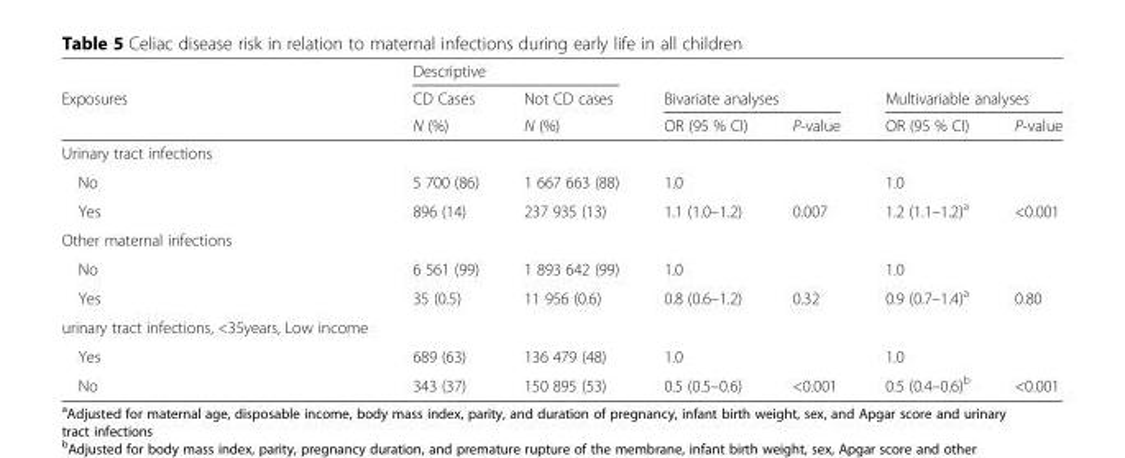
<table><thead><tr><td rowspan="3">Exposures</td><td colspan="2">Descriptive</td><td></td><td></td><td></td><td></td></tr><tr><td rowspan="2">CD Cases N (%)</td><td rowspan="2">Not CD cases N (%)</td><td colspan="2">Bivariate analyses</td><td colspan="2">Multivariable analyses</td></tr><tr><td>OR (95 % CI)</td><td>P-value</td><td>OR (95 % CI)</td><td>P-value</td></tr></thead><tbody><tr><td colspan="7">Urinary tract infections</td></tr><tr><td>No</td><td>5 700 (86)</td><td>1 667 663 (88)</td><td>1.0</td><td></td><td>1.0</td><td></td></tr><tr><td>Yes</td><td>896 (14)</td><td>237 935 (13)</td><td>1.1 (1.0–1.2)</td><td>0.007</td><td>1.2 (1.1–1.2)<sup>a</sup></td><td>&lt;0.001</td></tr><tr><td colspan="7">Other maternal infections</td></tr><tr><td>No</td><td>6 561 (99)</td><td>1 893 642 (99)</td><td>1.0</td><td></td><td>1.0</td><td></td></tr><tr><td>Yes</td><td>35 (0.5)</td><td>11 956 (0.6)</td><td>0.8 (0.6–1.2)</td><td>0.32</td><td>0.9 (0.7–1.4)<sup>a</sup></td><td>0.80</td></tr><tr><td colspan="7">urinary tract infections, &lt;35years, Low income</td></tr><tr><td>Yes</td><td>689 (63)</td><td>136 479 (48)</td><td>1.0</td><td></td><td>1.0</td><td></td></tr><tr><td>No</td><td>343 (37)</td><td>150 895 (53)</td><td>0.5 (0.5–0.6)</td><td>&lt;0.001</td><td>0.5 (0.4–0.6)<sup>b</sup></td><td>&lt;0.001</td></tr></tbody></table>